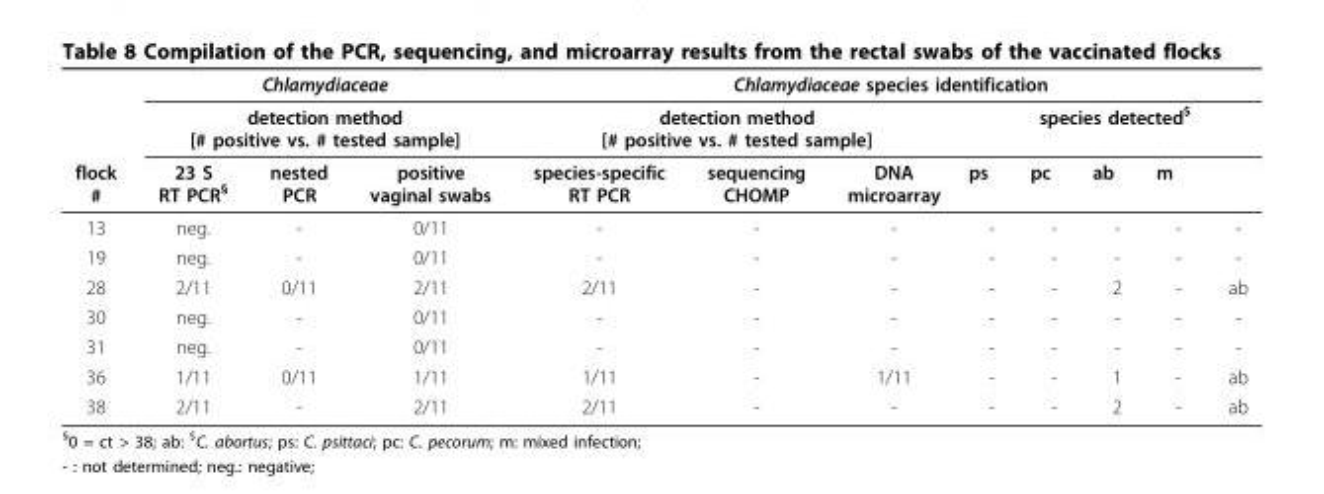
<table><thead><tr><td rowspan="3">flock #</td><td rowspan="2" colspan="3">Chlamydiaceae detection method [# positive vs. # tested sample]</td><td colspan="8">Chlamydiaceae species identification</td></tr><tr><td colspan="3">detection method [# positive vs. # tested sample]</td><td colspan="5">species detected<sup>$</sup></td></tr><tr><td>23 S RT PCR<sup>§</sup></td><td>nested PCR</td><td>positive vaginal swabs</td><td>species-specific RT PCR</td><td>sequencing CHOMP</td><td>DNA microarray</td><td>ps</td><td>pc</td><td>ab</td><td>m</td><td></td></tr></thead><tbody><tr><td>13</td><td>neg.</td><td>-</td><td>0/11</td><td>-</td><td>-</td><td>-</td><td>-</td><td>-</td><td>-</td><td>-</td><td>-</td></tr><tr><td>19</td><td>neg.</td><td>-</td><td>0/11</td><td>-</td><td>-</td><td>-</td><td>-</td><td>-</td><td>-</td><td>-</td><td>-</td></tr><tr><td>28</td><td>2/11</td><td>0/11</td><td>2/11</td><td>2/11</td><td>-</td><td>-</td><td>-</td><td>-</td><td>2</td><td>-</td><td>ab</td></tr><tr><td>30</td><td>neg.</td><td>-</td><td>0/11</td><td>-</td><td>-</td><td>-</td><td>-</td><td>-</td><td>-</td><td>-</td><td>-</td></tr><tr><td>31</td><td>neg.</td><td>-</td><td>0/11</td><td>-</td><td>-</td><td>-</td><td>-</td><td>-</td><td>-</td><td>-</td><td>-</td></tr><tr><td>36</td><td>1/11</td><td>0/11</td><td>1/11</td><td>1/11</td><td>-</td><td>1/11</td><td>-</td><td>-</td><td>1</td><td>-</td><td>ab</td></tr><tr><td>38</td><td>2/11</td><td>-</td><td>2/11</td><td>2/11</td><td>-</td><td>-</td><td>-</td><td>-</td><td>2</td><td>-</td><td>ab</td></tr></tbody></table>